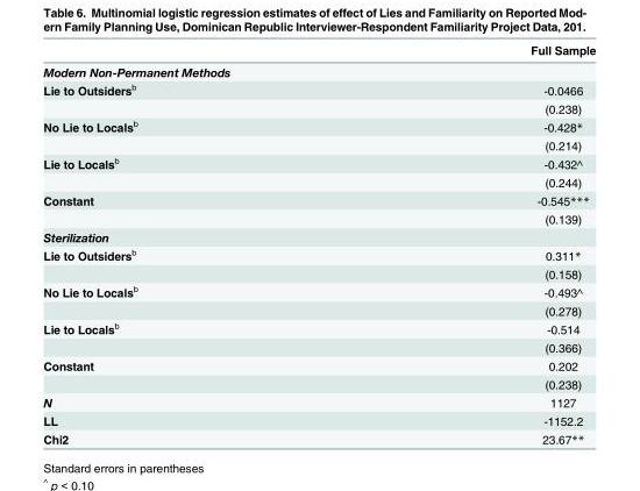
<table><thead><tr><td></td><td>Full Sample</td></tr></thead><tbody><tr><td colspan="2">Modern Non-Permanent Methods</td></tr><tr><td rowspan="2">Lie to Outsiders<sup>b</sup></td><td>-0.0466</td></tr><tr><td>(0.238)</td></tr><tr><td rowspan="2">No Lie to Locals<sup>b</sup></td><td>-0.428*</td></tr><tr><td>(0.214)</td></tr><tr><td rowspan="2">Lie to Locals<sup>b</sup></td><td>-0.432^</td></tr><tr><td>(0.244)</td></tr><tr><td rowspan="2">Constant</td><td>-0.545***</td></tr><tr><td>(0.139)</td></tr><tr><td colspan="2">Sterilization</td></tr><tr><td rowspan="2">Lie to Outsiders<sup>b</sup></td><td>0.311*</td></tr><tr><td>(0.158)</td></tr><tr><td rowspan="2">No Lie to Locals<sup>b</sup></td><td>-0.493^</td></tr><tr><td>(0.278)</td></tr><tr><td rowspan="2">Lie to Locals<sup>b</sup></td><td>-0.514</td></tr><tr><td>(0.366)</td></tr><tr><td rowspan="2">Constant</td><td>0.202</td></tr><tr><td>(0.238)</td></tr><tr><td>N</td><td>1127</td></tr><tr><td>LL</td><td>-1152.2</td></tr><tr><td>Chi2</td><td>23.67**</td></tr></tbody></table>